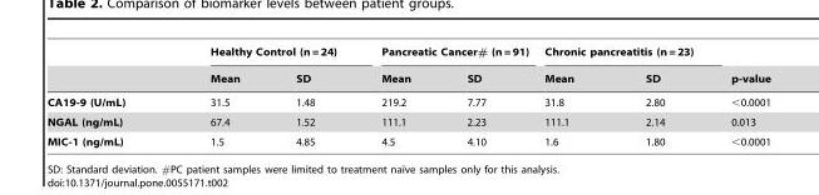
<table><thead><tr><td rowspan="2"></td><td colspan="2">Healthy Control (n = 24)</td><td colspan="2">Pancreatic Cancer# (n = 91)</td><td colspan="2">Chronic pancreatitis (n = 23)</td><td rowspan="2">p-value</td></tr><tr><td>Mean</td><td>SD</td><td>Mean</td><td>SD</td><td>Mean</td><td>SD</td></tr></thead><tbody><tr><td>CA19-9 (U/mL)</td><td>31.5</td><td>1.48</td><td>219.2</td><td>7.77</td><td>31.8</td><td>2.80</td><td>&lt;0.0001</td></tr><tr><td>NGAL (ng/mL)</td><td>67.4</td><td>1.52</td><td>111.1</td><td>2.23</td><td>111.1</td><td>2.14</td><td>0.013</td></tr><tr><td>MIC-1 (ng/mL)</td><td>1.5</td><td>4.85</td><td>4.5</td><td>4.10</td><td>1.6</td><td>1.80</td><td>&lt;0.0001</td></tr></tbody></table>